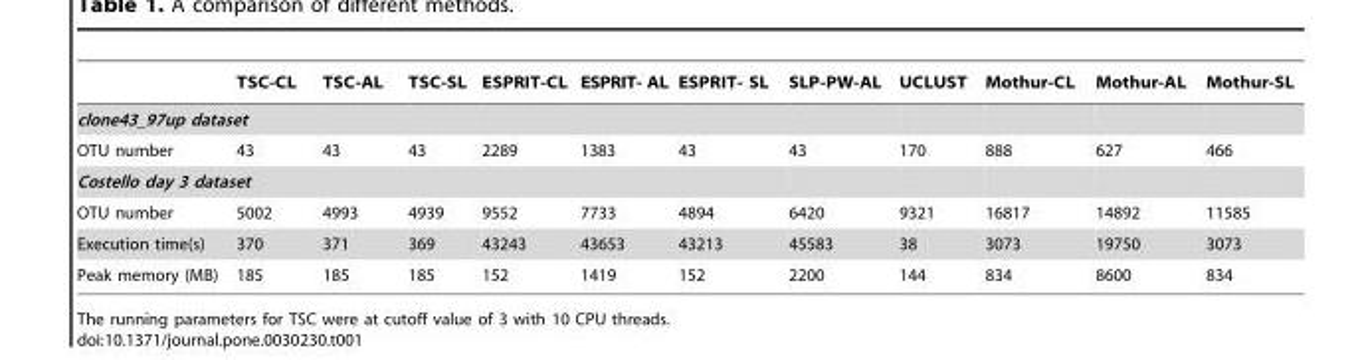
<table><thead><tr><td></td><td>TSC-CL</td><td>TSC-AL</td><td>TSC-SL</td><td>ESPRIT-CL</td><td>ESPRIT- AL</td><td>ESPRIT- SL</td><td>SLP-PW-AL</td><td>UCLUST</td><td>Mothur-CL</td><td>Mothur-AL</td><td>Mothur-SL</td></tr></thead><tbody><tr><td colspan="12">clone43_97up dataset</td></tr><tr><td>OTU number</td><td>43</td><td>43</td><td>43</td><td>2289</td><td>1383</td><td>43</td><td>43</td><td>170</td><td>888</td><td>627</td><td>466</td></tr><tr><td colspan="12">Costello day 3 dataset</td></tr><tr><td>OTU number</td><td>5002</td><td>4993</td><td>4939</td><td>9552</td><td>7733</td><td>4894</td><td>6420</td><td>9321</td><td>16817</td><td>14892</td><td>11585</td></tr><tr><td>Execution time(s)</td><td>370</td><td>371</td><td>369</td><td>43243</td><td>43653</td><td>43213</td><td>45583</td><td>38</td><td>3073</td><td>19750</td><td>3073</td></tr><tr><td>Peak memory (MB)</td><td>185</td><td>185</td><td>185</td><td>152</td><td>1419</td><td>152</td><td>2200</td><td>144</td><td>834</td><td>8600</td><td>834</td></tr></tbody></table>